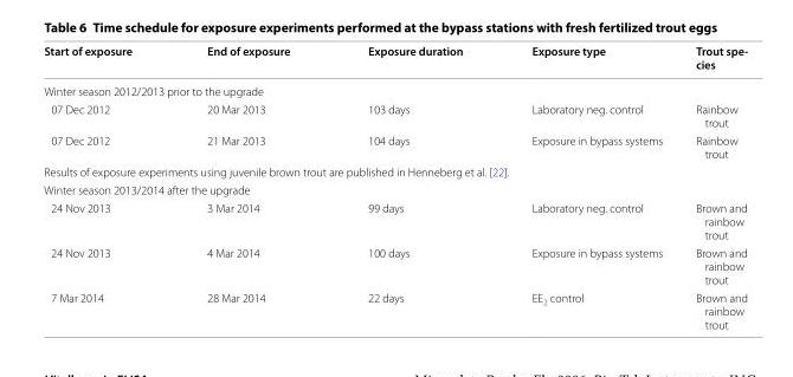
<table><thead><tr><td>Start of exposure</td><td>End of exposure</td><td>Exposure duration</td><td>Exposure type</td><td>Trout spe- cies</td></tr></thead><tbody><tr><td colspan="5">Winter season 2012/2013 prior to the upgrade</td></tr><tr><td>07 Dec 2012</td><td>20 Mar 2013</td><td>103 days</td><td>Laboratory neg. control</td><td>Rainbow trout</td></tr><tr><td>07 Dec 2012</td><td>21 Mar 2013</td><td>104 days</td><td>Exposure in bypass systems</td><td>Rainbow trout</td></tr><tr><td colspan="5">Results of exposure experiments using juvenile brown trout are published in Henneberg et al. [22].</td></tr><tr><td colspan="5">Winter season 2013/2014 after the upgrade</td></tr><tr><td>24 Nov 2013</td><td>3 Mar 2014</td><td>99 days</td><td>Laboratory neg. control</td><td>Brown and rainbow trout</td></tr><tr><td>24 Nov 2013</td><td>4 Mar 2014</td><td>100 days</td><td>Exposure in bypass systems</td><td>Brown and rainbow trout</td></tr><tr><td>7 Mar 2014</td><td>28 Mar 2014</td><td>22 days</td><td>EE<sub>2</sub> control</td><td>Brown and rainbow trout</td></tr></tbody></table>